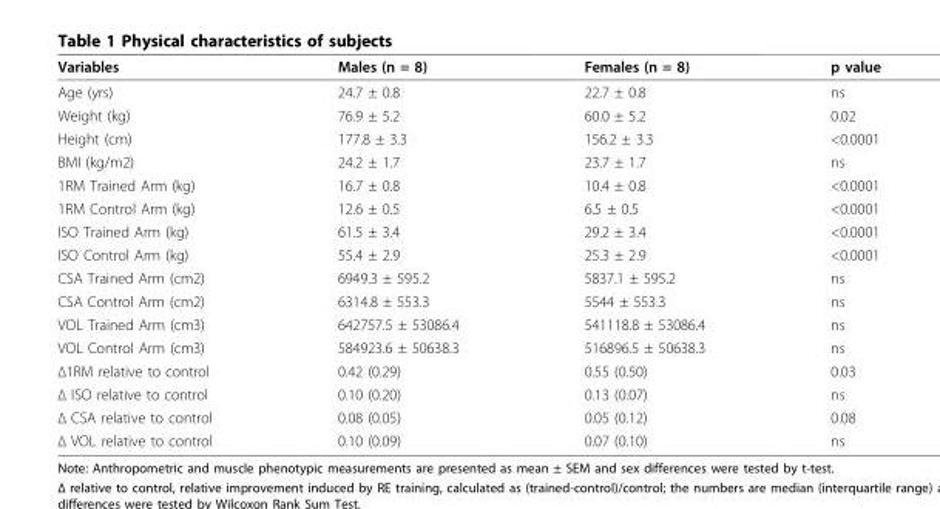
<table><thead><tr><td>Variables</td><td>Males (n = 8)</td><td>Females (n = 8)</td><td>p value</td></tr></thead><tbody><tr><td>Age (yrs)</td><td>24.7 ± 0.8</td><td>22.7 ± 0.8</td><td>ns</td></tr><tr><td>Weight (kg)</td><td>76.9 ± 5.2</td><td>60.0 ± 5.2</td><td>0.02</td></tr><tr><td>Height (cm)</td><td>177.8 ± 3.3</td><td>156.2 ± 3.3</td><td>&lt;0.0001</td></tr><tr><td>BMI (kg/m2)</td><td>24.2 ± 1.7</td><td>23.7 ± 1.7</td><td>ns</td></tr><tr><td>1RM Trained Arm (kg)</td><td>16.7 ± 0.8</td><td>10.4 ± 0.8</td><td>&lt;0.0001</td></tr><tr><td>1RM Control Arm (kg)</td><td>12.6 ± 0.5</td><td>6.5 ± 0.5</td><td>&lt;0.0001</td></tr><tr><td>ISO Trained Arm (kg)</td><td>61.5 ± 3.4</td><td>29.2 ± 3.4</td><td>&lt;0.0001</td></tr><tr><td>ISO Control Arm (kg)</td><td>55.4 ± 2.9</td><td>25.3 ± 2.9</td><td>&lt;0.0001</td></tr><tr><td>CSA Trained Arm (cm2)</td><td>6949.3 ± 595.2</td><td>5837.1 ± 595.2</td><td>ns</td></tr><tr><td>CSA Control Arm (cm2)</td><td>6314.8 ± 553.3</td><td>5544 ± 553.3</td><td>ns</td></tr><tr><td>VOL Trained Arm (cm3)</td><td>642757.5 ± 53086.4</td><td>541118.8 ± 53086.4</td><td>ns</td></tr><tr><td>VOL Control Arm (cm3)</td><td>584923.6 ± 50638.3</td><td>516896.5 ± 50638.3</td><td>ns</td></tr><tr><td>Δ1RM relative to control</td><td>0.42 (0.29)</td><td>0.55 (0.50)</td><td>0.03</td></tr><tr><td>Δ ISO relative to control</td><td>0.10 (0.20)</td><td>0.13 (0.07)</td><td>ns</td></tr><tr><td>Δ CSA relative to control</td><td>0.08 (0.05)</td><td>0.05 (0.12)</td><td>0.08</td></tr><tr><td>Δ VOL relative to control</td><td>0.10 (0.09)</td><td>0.07 (0.10)</td><td>ns</td></tr></tbody></table>